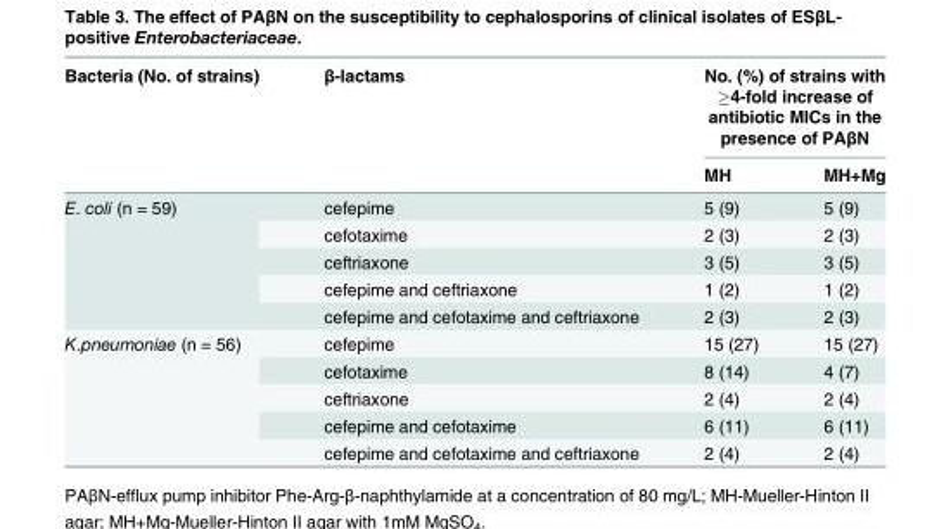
<table><thead><tr><td rowspan="2">Bacteria (No. of strains)</td><td rowspan="2">β-lactams</td><td colspan="2">No. (%) of strains with ≥4-fold increase of antibiotic MICs in the presence of PAβN</td></tr><tr><td>MH</td><td>MH+Mg</td></tr></thead><tbody><tr><td rowspan="5">E. coli (n = 59)</td><td>cefepime</td><td>5 (9)</td><td>5 (9)</td></tr><tr><td>cefotaxime</td><td>2 (3)</td><td>2 (3)</td></tr><tr><td>ceftriaxone</td><td>3 (5)</td><td>3 (5)</td></tr><tr><td>cefepime and ceftriaxone</td><td>1 (2)</td><td>1 (2)</td></tr><tr><td>cefepime and cefotaxime and ceftriaxone</td><td>2 (3)</td><td>2 (3)</td></tr><tr><td rowspan="5">K.pneumoniae (n = 56)</td><td>cefepime</td><td>15 (27)</td><td>15 (27)</td></tr><tr><td>cefotaxime</td><td>8 (14)</td><td>4 (7)</td></tr><tr><td>ceftriaxone</td><td>2 (4)</td><td>2 (4)</td></tr><tr><td>cefepime and cefotaxime</td><td>6 (11)</td><td>6 (11)</td></tr><tr><td>cefepime and cefotaxime and ceftriaxone</td><td>2 (4)</td><td>2 (4)</td></tr></tbody></table>